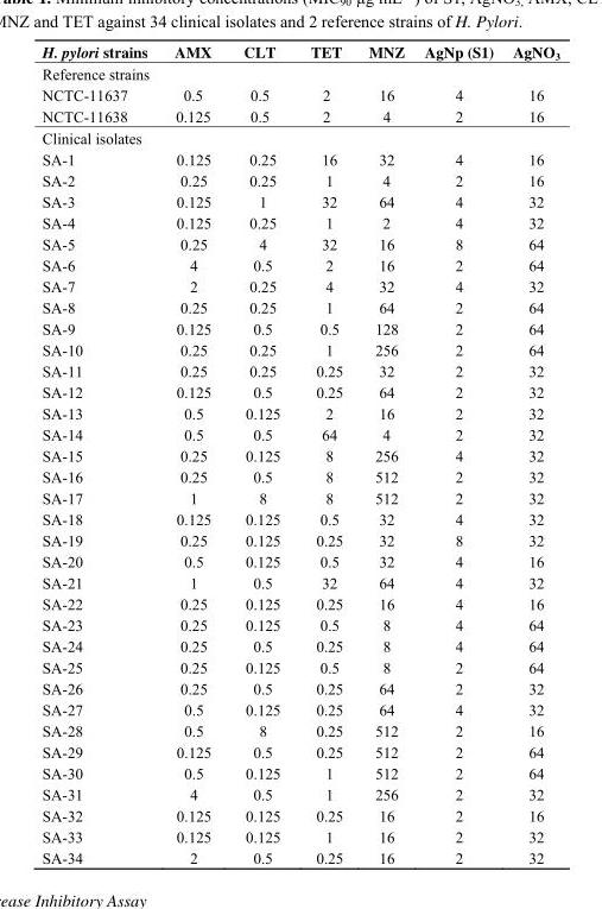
<table><thead><tr><td>H. pylori strains</td><td>AMX</td><td>CLT</td><td>TET</td><td>MNZ</td><td>AgNp (S1)</td><td>AgNO<sub>3</sub></td></tr></thead><tbody><tr><td colspan="7">Reference strains</td></tr><tr><td>NCTC-11637</td><td>0.5</td><td>0.5</td><td>2</td><td>16</td><td>4</td><td>16</td></tr><tr><td>NCTC-11638</td><td>0.125</td><td>0.5</td><td>2</td><td>4</td><td>2</td><td>16</td></tr><tr><td colspan="7">Clinical isolates</td></tr><tr><td>SA-1</td><td>0.125</td><td>0.25</td><td>16</td><td>32</td><td>4</td><td>16</td></tr><tr><td>SA-2</td><td>0.25</td><td>0.25</td><td>1</td><td>4</td><td>2</td><td>16</td></tr><tr><td>SA-3</td><td>0.125</td><td>1</td><td>32</td><td>64</td><td>4</td><td>32</td></tr><tr><td>SA-4</td><td>0.125</td><td>0.25</td><td>1</td><td>2</td><td>4</td><td>32</td></tr><tr><td>SA-5</td><td>0.25</td><td>4</td><td>32</td><td>16</td><td>8</td><td>64</td></tr><tr><td>SA-6</td><td>4</td><td>0.5</td><td>2</td><td>16</td><td>2</td><td>64</td></tr><tr><td>SA-7</td><td>2</td><td>0.25</td><td>4</td><td>32</td><td>4</td><td>32</td></tr><tr><td>SA-8</td><td>0.25</td><td>0.25</td><td>1</td><td>64</td><td>2</td><td>64</td></tr><tr><td>SA-9</td><td>0.125</td><td>0.5</td><td>0.5</td><td>128</td><td>2</td><td>64</td></tr><tr><td>SA-10</td><td>0.25</td><td>0.25</td><td>1</td><td>256</td><td>2</td><td>64</td></tr><tr><td>SA-11</td><td>0.25</td><td>0.25</td><td>0.25</td><td>32</td><td>2</td><td>32</td></tr><tr><td>SA-12</td><td>0.125</td><td>0.5</td><td>0.25</td><td>64</td><td>2</td><td>32</td></tr><tr><td>SA-13</td><td>0.5</td><td>0.125</td><td>2</td><td>16</td><td>2</td><td>32</td></tr><tr><td>SA-14</td><td>0.5</td><td>0.5</td><td>64</td><td>4</td><td>2</td><td>32</td></tr><tr><td>SA-15</td><td>0.25</td><td>0.125</td><td>8</td><td>256</td><td>4</td><td>32</td></tr><tr><td>SA-16</td><td>0.25</td><td>0.5</td><td>8</td><td>512</td><td>2</td><td>32</td></tr><tr><td>SA-17</td><td>1</td><td>8</td><td>8</td><td>512</td><td>2</td><td>32</td></tr><tr><td>SA-18</td><td>0.125</td><td>0.125</td><td>0.5</td><td>32</td><td>4</td><td>32</td></tr><tr><td>SA-19</td><td>0.25</td><td>0.125</td><td>0.25</td><td>32</td><td>8</td><td>32</td></tr><tr><td>SA-20</td><td>0.5</td><td>0.125</td><td>0.5</td><td>32</td><td>4</td><td>16</td></tr><tr><td>SA-21</td><td>1</td><td>0.5</td><td>32</td><td>64</td><td>4</td><td>32</td></tr><tr><td>SA-22</td><td>0.25</td><td>0.125</td><td>0.25</td><td>16</td><td>4</td><td>16</td></tr><tr><td>SA-23</td><td>0.25</td><td>0.125</td><td>0.5</td><td>8</td><td>4</td><td>64</td></tr><tr><td>SA-24</td><td>0.25</td><td>0.5</td><td>0.25</td><td>8</td><td>4</td><td>64</td></tr><tr><td>SA-25</td><td>0.25</td><td>0.125</td><td>0.5</td><td>8</td><td>2</td><td>64</td></tr><tr><td>SA-26</td><td>0.25</td><td>0.5</td><td>0.25</td><td>64</td><td>2</td><td>32</td></tr><tr><td>SA-27</td><td>0.5</td><td>0.125</td><td>0.25</td><td>64</td><td>4</td><td>32</td></tr><tr><td>SA-28</td><td>0.5</td><td>8</td><td>0.25</td><td>512</td><td>2</td><td>16</td></tr><tr><td>SA-29</td><td>0.125</td><td>0.5</td><td>0.25</td><td>512</td><td>2</td><td>64</td></tr><tr><td>SA-30</td><td>0.5</td><td>0.125</td><td>1</td><td>512</td><td>2</td><td>64</td></tr><tr><td>SA-31</td><td>4</td><td>0.5</td><td>1</td><td>256</td><td>2</td><td>32</td></tr><tr><td>SA-32</td><td>0.125</td><td>0.125</td><td>0.25</td><td>16</td><td>2</td><td>16</td></tr><tr><td>SA-33</td><td>0.125</td><td>0.125</td><td>1</td><td>16</td><td>2</td><td>32</td></tr><tr><td>SA-34</td><td>2</td><td>0.5</td><td>0.25</td><td>16</td><td>2</td><td>32</td></tr></tbody></table>